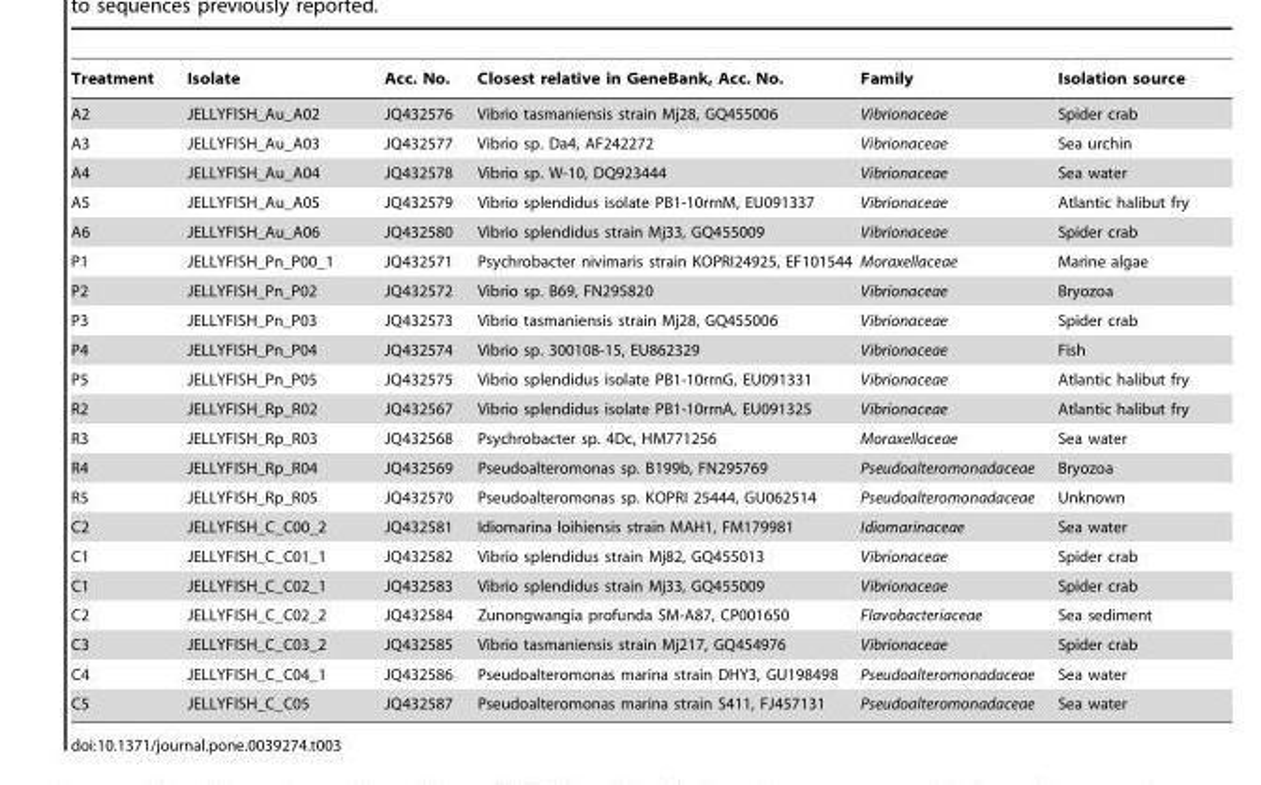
<table><thead><tr><td>Treatment</td><td>Isolate</td><td>Acc. No.</td><td>Closest relative in GeneBank, Acc. No.</td><td>Family</td><td>Isolation source</td></tr></thead><tbody><tr><td>A2</td><td>JELLYFISH_Au_A02</td><td>JQ432576</td><td>Vibrio tasmaniensis strain Mj28, GQ455006</td><td>Vibrionaceae</td><td>Spider crab</td></tr><tr><td>A3</td><td>JELLYFISH_Au_A03</td><td>JQ432577</td><td>Vibrio sp. Da4, AF242272</td><td>Vibrionaceae</td><td>Sea urchin</td></tr><tr><td>A4</td><td>JELLYFISH_Au_A04</td><td>JQ432578</td><td>Vibrio sp. W-10, DQ923444</td><td>Vibrionaceae</td><td>Sea water</td></tr><tr><td>A5</td><td>JELLYFISH_Au_A05</td><td>JQ432579</td><td>Vibrio splendidus isolate PB1-10rrnM, EU091337</td><td>Vibrionaceae</td><td>Atlantic halibut fry</td></tr><tr><td>A6</td><td>JELLYFISH_Au_A06</td><td>JQ432580</td><td>Vibrio splendidus strain Mj33, GQ455009</td><td>Vibrionaceae</td><td>Spider crab</td></tr><tr><td>P1</td><td>JELLYFISH_Pn_P00_1</td><td>JQ432571</td><td>Psychrobacter nivimaris strain KOPRI24925, EF101544</td><td>Moraxellaceae</td><td>Marine algae</td></tr><tr><td>P2</td><td>JELLYFISH_Pn_P02</td><td>JQ432572</td><td>Vibrio sp. B69, FN295820</td><td>Vibrionaceae</td><td>Bryozoa</td></tr><tr><td>P3</td><td>JELLYFISH_Pn_P03</td><td>JQ432573</td><td>Vibrio tasmaniensis strain Mj28, GQ455006</td><td>Vibrionaceae</td><td>Spider crab</td></tr><tr><td>P4</td><td>JELLYFISH_Pn_P04</td><td>JQ432574</td><td>Vibrio sp. 300108-15, EU862329</td><td>Vibrionaceae</td><td>Fish</td></tr><tr><td>P5</td><td>JELLYFISH_Pn_P05</td><td>JQ432575</td><td>Vibrio splendidus isolate PB1-10rrnG, EU091331</td><td>Vibrionaceae</td><td>Atlantic halibut fry</td></tr><tr><td>R2</td><td>JELLYFISH_Rp_R02</td><td>JQ432567</td><td>Vibrio splendidus isolate PB1-10rrnA, EU091325</td><td>Vibrionaceae</td><td>Atlantic halibut fry</td></tr><tr><td>R3</td><td>JELLYFISH_Rp_R03</td><td>JQ432568</td><td>Psychrobacter sp. 4Dc, HM771256</td><td>Moraxellaceae</td><td>Sea water</td></tr><tr><td>R4</td><td>JELLYFISH_Rp_R04</td><td>JQ432569</td><td>Pseudoalteromonas sp. B199b, FN295769</td><td>Pseudoalteromonadaceae</td><td>Bryozoa</td></tr><tr><td>R5</td><td>JELLYFISH_Rp_R05</td><td>JQ432570</td><td>Pseudoalteromonas sp. KOPRI 25444, GU062514</td><td>Pseudoalteromonadaceae</td><td>Unknown</td></tr><tr><td>C2</td><td>JELLYFISH_C_C00_2</td><td>JQ432581</td><td>Idiomarina loihiensis strain MAH1, FM179981</td><td>Idiomarinaceae</td><td>Sea water</td></tr><tr><td>C1</td><td>JELLYFISH_C_C01_1</td><td>JQ432582</td><td>Vibrio splendidus strain Mj82, GQ455013</td><td>Vibrionaceae</td><td>Spider crab</td></tr><tr><td>C1</td><td>JELLYFISH_C_C02_1</td><td>JQ432583</td><td>Vibrio splendidus strain Mj33, GQ455009</td><td>Vibrionaceae</td><td>Spider crab</td></tr><tr><td>C2</td><td>JELLYFISH_C_C02_2</td><td>JQ432584</td><td>Zunongwangia profunda SM-A87, CP001650</td><td>Flavobacteriaceae</td><td>Sea sediment</td></tr><tr><td>C3</td><td>JELLYFISH_C_C03_2</td><td>JQ432585</td><td>Vibrio tasmaniensis strain Mj217, GQ454976</td><td>Vibrionaceae</td><td>Spider crab</td></tr><tr><td>C4</td><td>JELLYFISH_C_C04_1</td><td>JQ432586</td><td>Pseudoalteromonas marina strain DHY3, GU198498</td><td>Pseudoalteromonadaceae</td><td>Sea water</td></tr><tr><td>C5</td><td>JELLYFISH_C_C05</td><td>JQ432587</td><td>Pseudoalteromonas marina strain S411, FJ457131</td><td>Pseudoalteromonadaceae</td><td>Sea water</td></tr></tbody></table>